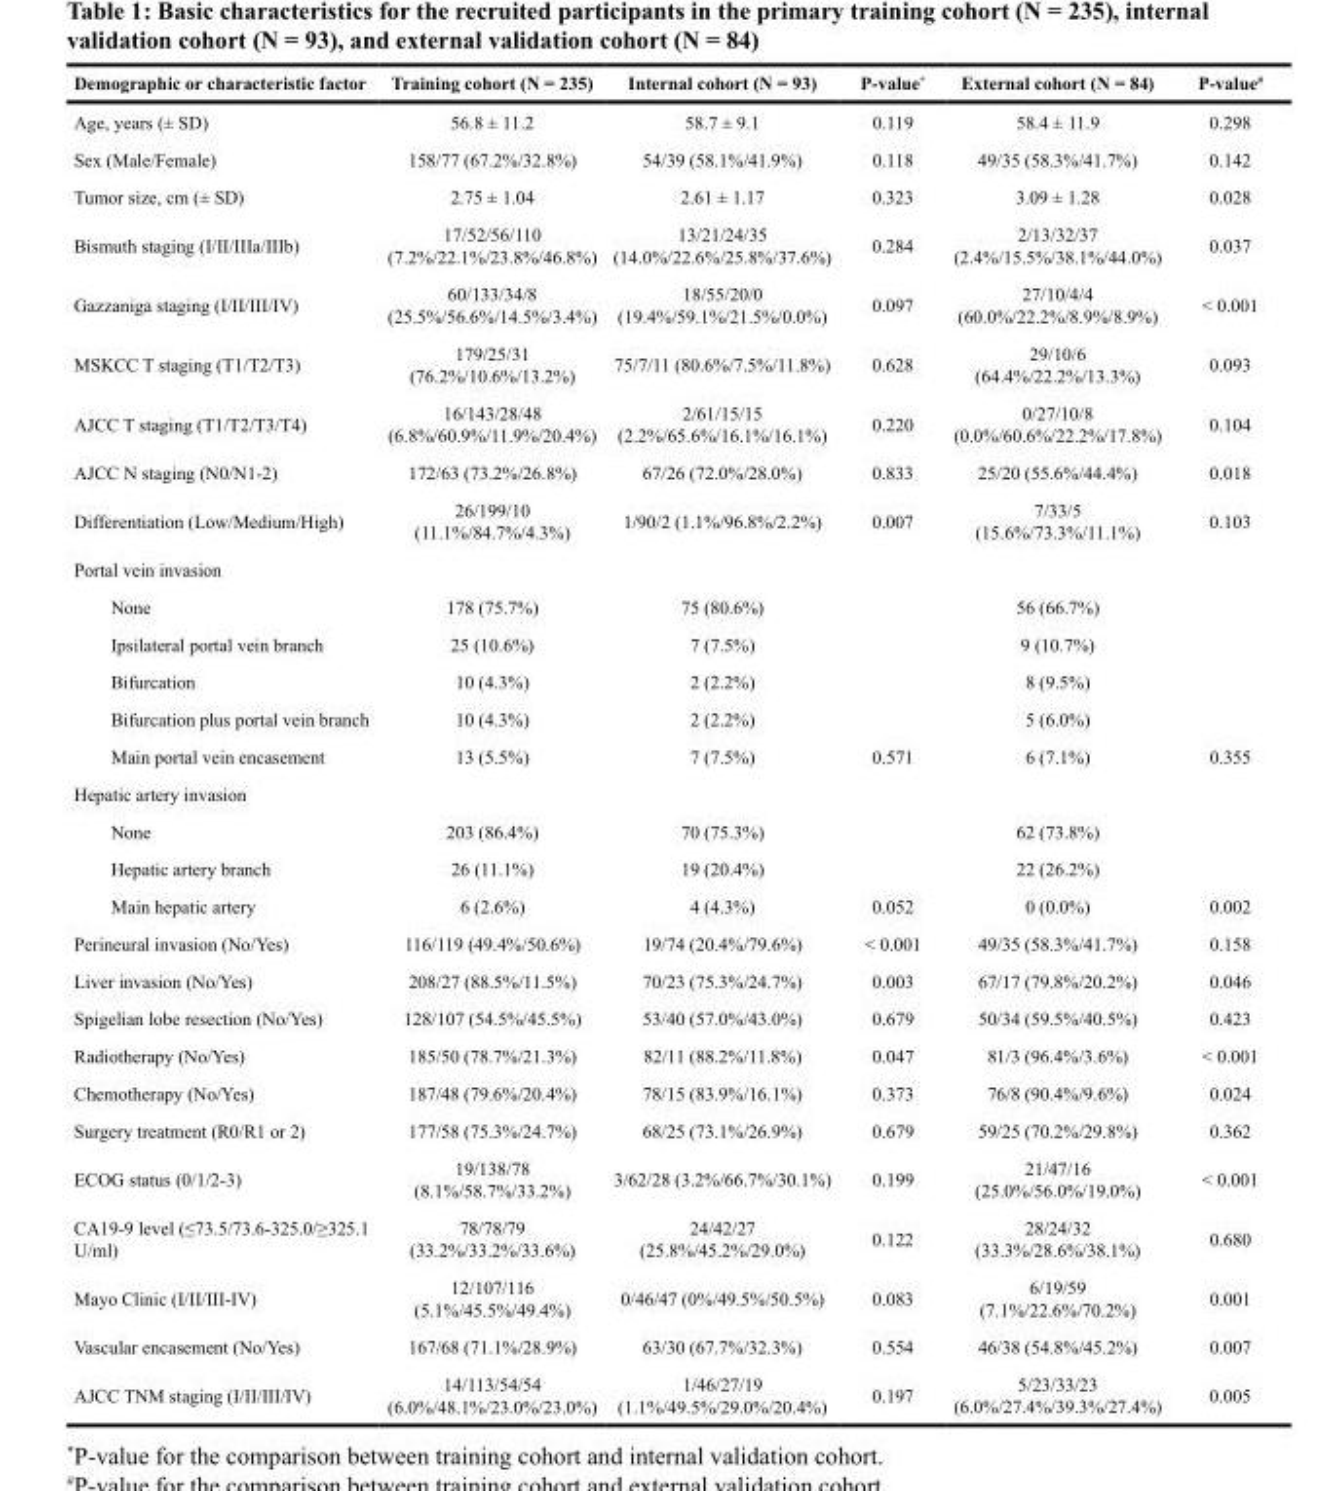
<table><thead><tr><td>Demographic or characteristic factor</td><td>Training cohort (N = 235)</td><td>Internal cohort (N = 93)</td><td>P-value*</td><td>External cohort (N = 84)</td><td>P-value<sup>#</sup></td></tr></thead><tbody><tr><td>Age, years (± SD)</td><td>56.8 ± 11.2</td><td>58.7 ± 9.1</td><td>0.119</td><td>58.4 ± 11.9</td><td>0.298</td></tr><tr><td>Sex (Male/Female)</td><td>158/77 (67.2%/32.8%)</td><td>54/39 (58.1%/41.9%)</td><td>0.118</td><td>49/35 (58.3%/41.7%)</td><td>0.142</td></tr><tr><td>Tumor size, cm (± SD)</td><td>2.75 ± 1.04</td><td>2.61 ± 1.17</td><td>0.323</td><td>3.09 ± 1.28</td><td>0.028</td></tr><tr><td>Bismuth staging (I/II/IIIa/IIIb)</td><td>17/52/56/110 (7.2%/22.1%/23.8%/46.8%)</td><td>13/21/24/35 (14.0%/22.6%/25.8%/37.6%)</td><td>0.284</td><td>2/13/32/37 (2.4%/15.5%/38.1%/44.0%)</td><td>0.037</td></tr><tr><td>Gazzaniga staging (I/II/III/IV)</td><td>60/133/34/8 (25.5%/56.6%/14.5%/3.4%)</td><td>18/55/20/0 (19.4%/59.1%/21.5%/0.0%)</td><td>0.097</td><td>27/10/4/4 (60.0%/22.2%/8.9%/8.9%)</td><td>&lt; 0.001</td></tr><tr><td>MSKCC T staging (T1/T2/T3)</td><td>179/25/31 (76.2%/10.6%/13.2%)</td><td>75/7/11 (80.6%/7.5%/11.8%)</td><td>0.628</td><td>29/10/6 (64.4%/22.2%/13.3%)</td><td>0.093</td></tr><tr><td>AJCC T staging (T1/T2/T3/T4)</td><td>16/143/28/48 (6.8%/60.9%/11.9%/20.4%)</td><td>2/61/15/15 (2.2%/65.6%/16.1%/16.1%)</td><td>0.220</td><td>0/27/10/8 (0.0%/60.6%/22.2%/17.8%)</td><td>0.104</td></tr><tr><td>AJCC N staging (N0/N1-2)</td><td>172/63 (73.2%/26.8%)</td><td>67/26 (72.0%/28.0%)</td><td>0.833</td><td>25/20 (55.6%/44.4%)</td><td>0.018</td></tr><tr><td>Differentiation (Low/Medium/High)</td><td>26/199/10 (11.1%/84.7%/4.3%)</td><td>1/90/2 (1.1%/96.8%/2.2%)</td><td>0.007</td><td>7/33/5 (15.6%/73.3%/11.1%)</td><td>0.103</td></tr><tr><td colspan="6">Portal vein invasion</td></tr><tr><td>None</td><td>178 (75.7%)</td><td>75 (80.6%)</td><td></td><td>56 (66.7%)</td><td></td></tr><tr><td>Ipsilateral portal vein branch</td><td>25 (10.6%)</td><td>7 (7.5%)</td><td></td><td>9 (10.7%)</td><td></td></tr><tr><td>Bifurcation</td><td>10 (4.3%)</td><td>2 (2.2%)</td><td></td><td>8 (9.5%)</td><td></td></tr><tr><td>Bifurcation plus portal vein branch</td><td>10 (4.3%)</td><td>2 (2.2%)</td><td></td><td>5 (6.0%)</td><td></td></tr><tr><td>Main portal vein encasement</td><td>13 (5.5%)</td><td>7 (7.5%)</td><td>0.571</td><td>6 (7.1%)</td><td>0.355</td></tr><tr><td colspan="6">Hepatic artery invasion</td></tr><tr><td>None</td><td>203 (86.4%)</td><td>70 (75.3%)</td><td></td><td>62 (73.8%)</td><td></td></tr><tr><td>Hepatic artery branch</td><td>26 (11.1%)</td><td>19 (20.4%)</td><td></td><td>22 (26.2%)</td><td></td></tr><tr><td>Main hepatic artery</td><td>6 (2.6%)</td><td>4 (4.3%)</td><td>0.052</td><td>0 (0.0%)</td><td>0.002</td></tr><tr><td>Perineural invasion (No/Yes)</td><td>116/119 (49.4%/50.6%)</td><td>19/74 (20.4%/79.6%)</td><td>&lt; 0.001</td><td>49/35 (58.3%/41.7%)</td><td>0.158</td></tr><tr><td>Liver invasion (No/Yes)</td><td>208/27 (88.5%/11.5%)</td><td>70/23 (75.3%/24.7%)</td><td>0.003</td><td>67/17 (79.8%/20.2%)</td><td>0.046</td></tr><tr><td>Spigelian lobe resection (No/Yes)</td><td>128/107 (54.5%/45.5%)</td><td>53/40 (57.0%/43.0%)</td><td>0.679</td><td>50/34 (59.5%/40.5%)</td><td>0.423</td></tr><tr><td>Radiotherapy (No/Yes)</td><td>185/50 (78.7%/21.3%)</td><td>82/11 (88.2%/11.8%)</td><td>0.047</td><td>81/3 (96.4%/3.6%)</td><td>&lt; 0.001</td></tr><tr><td>Chemotherapy (No/Yes)</td><td>187/48 (79.6%/20.4%)</td><td>78/15 (83.9%/16.1%)</td><td>0.373</td><td>76/8 (90.4%/9.6%)</td><td>0.024</td></tr><tr><td>Surgery treatment (R0/R1 or 2)</td><td>177/58 (75.3%/24.7%)</td><td>68/25 (73.1%/26.9%)</td><td>0.679</td><td>59/25 (70.2%/29.8%)</td><td>0.362</td></tr><tr><td>ECOG status (0/1/2-3)</td><td>19/138/78 (8.1%/58.7%/33.2%)</td><td>3/62/28 (3.2%/66.7%/30.1%)</td><td>0.199</td><td>21/47/16 (25.0%/56.0%/19.0%)</td><td>&lt; 0.001</td></tr><tr><td>CA19-9 level (≤73.5/73.6-325.0/≥325.1 U/ml)</td><td>78/78/79 (33.2%/33.2%/33.6%)</td><td>24/42/27 (25.8%/45.2%/29.0%)</td><td>0.122</td><td>28/24/32 (33.3%/28.6%/38.1%)</td><td>0.680</td></tr><tr><td>Mayo Clinic (I/II/III-IV)</td><td>12/107/116 (5.1%/45.5%/49.4%)</td><td>0/46/47 (0%/49.5%/50.5%)</td><td>0.083</td><td>6/19/59 (7.1%/22.6%/70.2%)</td><td>0.001</td></tr><tr><td>Vascular encasement (No/Yes)</td><td>167/68 (71.1%/28.9%)</td><td>63/30 (67.7%/32.3%)</td><td>0.554</td><td>46/38 (54.8%/45.2%)</td><td>0.007</td></tr><tr><td>AJCC TNM staging (I/II/III/IV)</td><td>14/113/54/54 (6.0%/48.1%/23.0%/23.0%)</td><td>1/46/27/19 (1.1%/49.5%/29.0%/20.4%)</td><td>0.197</td><td>5/23/33/23 (6.0%/27.4%/39.3%/27.4%)</td><td>0.005</td></tr></tbody></table>